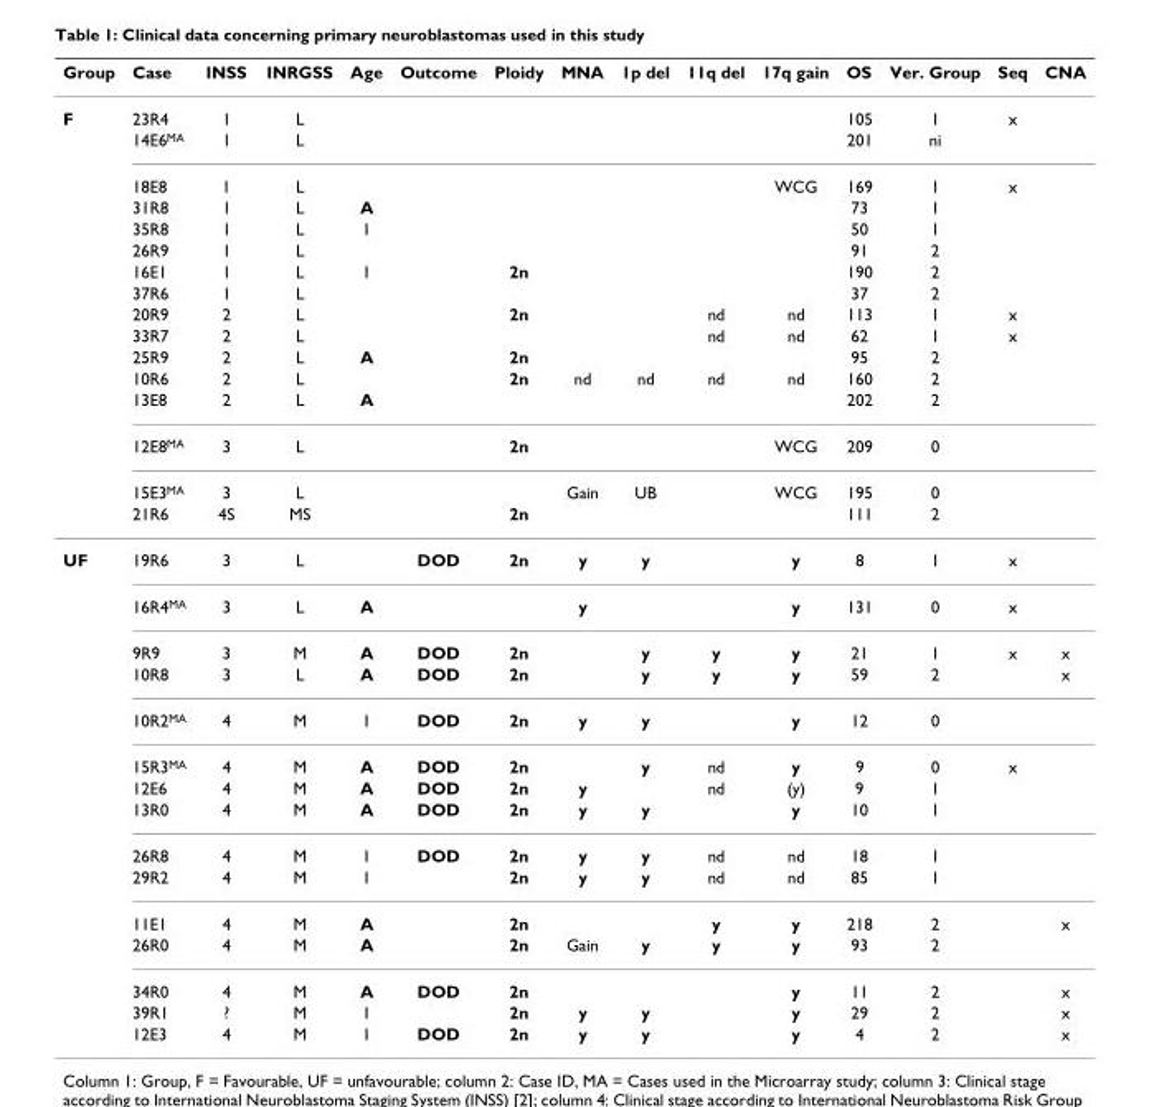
<table><thead><tr><td>Group</td><td>Case</td><td>INSS</td><td>INRGSS</td><td>Age</td><td>Outcome</td><td>Ploidy</td><td>MNA</td><td>1p del</td><td>11q del</td><td>17q gain</td><td>OS</td><td>Ver. Group</td><td>Seq</td><td>CNA</td></tr></thead><tbody><tr><td rowspan="16">F</td><td>23R4</td><td>1</td><td>L</td><td></td><td></td><td></td><td></td><td></td><td></td><td></td><td>105</td><td>1</td><td>x</td><td></td></tr><tr><td>14E6<sup>MA</sup></td><td>1</td><td>L</td><td></td><td></td><td></td><td></td><td></td><td></td><td></td><td>201</td><td>ni</td><td></td><td></td></tr><tr><td>18E8</td><td>1</td><td>L</td><td></td><td></td><td></td><td></td><td></td><td></td><td>WCG</td><td>169</td><td>1</td><td>x</td><td></td></tr><tr><td>31R8</td><td>1</td><td>L</td><td>A</td><td></td><td></td><td></td><td></td><td></td><td></td><td>73</td><td>1</td><td></td><td></td></tr><tr><td>35R8</td><td>1</td><td>L</td><td>I</td><td></td><td></td><td></td><td></td><td></td><td></td><td>50</td><td>1</td><td></td><td></td></tr><tr><td>26R9</td><td>1</td><td>L</td><td></td><td></td><td></td><td></td><td></td><td></td><td></td><td>91</td><td>2</td><td></td><td></td></tr><tr><td>16E1</td><td>1</td><td>L</td><td>I</td><td></td><td>2n</td><td></td><td></td><td></td><td></td><td>190</td><td>2</td><td></td><td></td></tr><tr><td>37R6</td><td>1</td><td>L</td><td></td><td></td><td></td><td></td><td></td><td></td><td></td><td>37</td><td>2</td><td></td><td></td></tr><tr><td>20R9</td><td>2</td><td>L</td><td></td><td></td><td>2n</td><td></td><td></td><td>nd</td><td>nd</td><td>113</td><td>1</td><td>x</td><td></td></tr><tr><td>33R7</td><td>2</td><td>L</td><td></td><td></td><td></td><td></td><td></td><td>nd</td><td>nd</td><td>62</td><td>1</td><td>x</td><td></td></tr><tr><td>25R9</td><td>2</td><td>L</td><td>A</td><td></td><td>2n</td><td></td><td></td><td></td><td></td><td>95</td><td>2</td><td></td><td></td></tr><tr><td>10R6</td><td>2</td><td>L</td><td></td><td></td><td>2n</td><td>nd</td><td>nd</td><td>nd</td><td>nd</td><td>160</td><td>2</td><td></td><td></td></tr><tr><td>13E8</td><td>2</td><td>L</td><td>A</td><td></td><td></td><td></td><td></td><td></td><td></td><td>202</td><td>2</td><td></td><td></td></tr><tr><td>12E8<sup>MA</sup></td><td>3</td><td>L</td><td></td><td></td><td>2n</td><td></td><td></td><td></td><td>WCG</td><td>209</td><td>0</td><td></td><td></td></tr><tr><td>15E3<sup>MA</sup></td><td>3</td><td>L</td><td></td><td></td><td></td><td>Gain</td><td>UB</td><td></td><td>WCG</td><td>195</td><td>0</td><td></td><td></td></tr><tr><td>21R6</td><td>4S</td><td>MS</td><td></td><td></td><td>2n</td><td></td><td></td><td></td><td></td><td>111</td><td>2</td><td></td><td></td></tr><tr><td rowspan="15">UF</td><td>19R6</td><td>3</td><td>L</td><td></td><td>DOD</td><td>2n</td><td>y</td><td>y</td><td></td><td>y</td><td>8</td><td>1</td><td>x</td><td></td></tr><tr><td>16R4<sup>MA</sup></td><td>3</td><td>L</td><td>A</td><td></td><td></td><td>y</td><td></td><td></td><td>y</td><td>131</td><td>0</td><td>x</td><td></td></tr><tr><td>9R9</td><td>3</td><td>M</td><td>A</td><td>DOD</td><td>2n</td><td></td><td>y</td><td>y</td><td>y</td><td>21</td><td>1</td><td>x</td><td>x</td></tr><tr><td>10R8</td><td>3</td><td>L</td><td>A</td><td>DOD</td><td>2n</td><td></td><td>y</td><td>y</td><td>y</td><td>59</td><td>2</td><td></td><td>x</td></tr><tr><td>10R2<sup>MA</sup></td><td>4</td><td>M</td><td>I</td><td>DOD</td><td>2n</td><td>y</td><td>y</td><td></td><td>y</td><td>12</td><td>0</td><td></td><td></td></tr><tr><td>15R3<sup>MA</sup></td><td>4</td><td>M</td><td>A</td><td>DOD</td><td>2n</td><td></td><td>y</td><td>nd</td><td>y</td><td>9</td><td>0</td><td>x</td><td></td></tr><tr><td>12E6</td><td>4</td><td>M</td><td>A</td><td>DOD</td><td>2n</td><td>y</td><td></td><td>nd</td><td>(y)</td><td>9</td><td>1</td><td></td><td></td></tr><tr><td>13R0</td><td>4</td><td>M</td><td>A</td><td>DOD</td><td>2n</td><td>y</td><td>y</td><td></td><td>y</td><td>10</td><td>1</td><td></td><td></td></tr><tr><td>26R8</td><td>4</td><td>M</td><td>I</td><td>DOD</td><td>2n</td><td>y</td><td>y</td><td>nd</td><td>nd</td><td>18</td><td>1</td><td></td><td></td></tr><tr><td>29R2</td><td>4</td><td>M</td><td>I</td><td></td><td>2n</td><td>y</td><td>y</td><td>nd</td><td>nd</td><td>85</td><td>1</td><td></td><td></td></tr><tr><td>11E1</td><td>4</td><td>M</td><td>A</td><td></td><td>2n</td><td></td><td></td><td>y</td><td>y</td><td>218</td><td>2</td><td></td><td>x</td></tr><tr><td>26R0</td><td>4</td><td>M</td><td>A</td><td></td><td>2n</td><td>Gain</td><td>y</td><td>y</td><td>y</td><td>93</td><td>2</td><td></td><td></td></tr><tr><td>34R0</td><td>4</td><td>M</td><td>A</td><td>DOD</td><td>2n</td><td></td><td></td><td></td><td>y</td><td>11</td><td>2</td><td></td><td>x</td></tr><tr><td>39R1</td><td>?</td><td>M</td><td>I</td><td></td><td>2n</td><td>y</td><td>y</td><td></td><td>y</td><td>29</td><td>2</td><td></td><td>x</td></tr><tr><td>12E3</td><td>4</td><td>M</td><td>I</td><td>DOD</td><td>2n</td><td>y</td><td>y</td><td></td><td>y</td><td>4</td><td>2</td><td></td><td>x</td></tr></tbody></table>